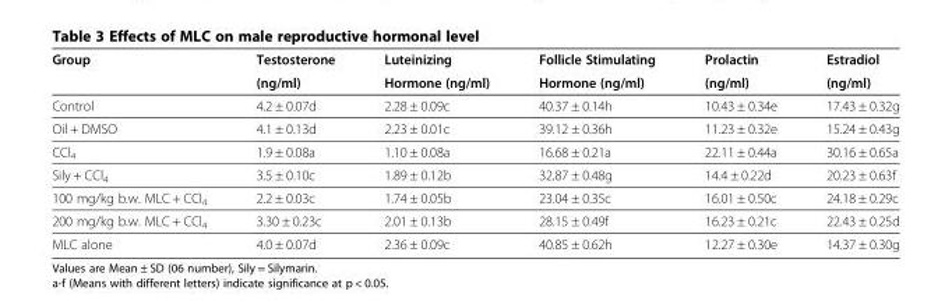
<table><thead><tr><td rowspan="2">Group</td><td rowspan="2">Testosterone (ng/ml)</td><td rowspan="2">Luteinizing Hormone (ng/ml)</td><td rowspan="2">Follicle Stimulating Hormone (ng/ml)</td><td rowspan="2">Prolactin (ng/ml)</td><td rowspan="2">Estradiol (ng/ml)</td></tr><tr></tr></thead><tbody><tr><td>Control</td><td>4.2 ± 0.07d</td><td>2.28 ± 0.09c</td><td>40.37 ± 0.14h</td><td>10.43 ± 0.34e</td><td>17.43 ± 0.32g</td></tr><tr><td>Oil + DMSO</td><td>4.1 ± 0.13d</td><td>2.23 ± 0.01c</td><td>39.12 ± 0.36h</td><td>11.23 ± 0.32e</td><td>15.24 ± 0.43g</td></tr><tr><td>CCl<sub>4</sub></td><td>1.9 ± 0.08a</td><td>1.10 ± 0.08a</td><td>16.68 ± 0.21a</td><td>22.11 ± 0.44a</td><td>30.16 ± 0.65a</td></tr><tr><td>Sily + CCl<sub>4</sub></td><td>3.5 ± 0.10c</td><td>1.89 ± 0.12b</td><td>32.87 ± 0.48g</td><td>14.4 ± 0.22d</td><td>20.23 ± 0.63f</td></tr><tr><td>100 mg/kg b.w. MLC + CCl<sub>4</sub></td><td>2.2 ± 0.03c</td><td>1.74 ± 0.05b</td><td>23.04 ± 0.35c</td><td>16.01 ± 0.50c</td><td>24.18 ± 0.29c</td></tr><tr><td>200 mg/kg b.w. MLC + CCl<sub>4</sub></td><td>3.30 ± 0.23c</td><td>2.01 ± 0.13b</td><td>28.15 ± 0.49f</td><td>16.23 ± 0.21c</td><td>22.43 ± 0.25d</td></tr><tr><td>MLC alone</td><td>4.0 ± 0.07d</td><td>2.36 ± 0.09c</td><td>40.85 ± 0.62h</td><td>12.27 ± 0.30e</td><td>14.37 ± 0.30g</td></tr></tbody></table>